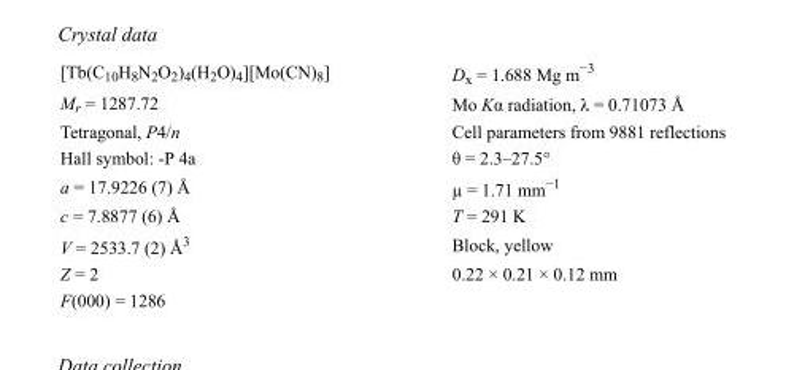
<table><tbody><tr><td>[Tb(C<sub>10</sub>H<sub>8</sub>N<sub>2</sub>O<sub>2</sub>)<sub>4</sub>(H<sub>2</sub>O)<sub>4</sub>][Mo(CN)<sub>8</sub>]</td><td>D<sub>x</sub> = 1.688 Mg m<sup>−3</sup></td></tr><tr><td>M<sub>r</sub> = 1287.72</td><td>Mo Kα radiation, λ = 0.71073 Å</td></tr><tr><td>Tetragonal, P4/n</td><td>Cell parameters from 9881 reflections</td></tr><tr><td>Hall symbol: -P 4a</td><td>θ = 2.3–27.5°</td></tr><tr><td>a = 17.9226 (7) Å</td><td>µ = 1.71 mm<sup>−1</sup></td></tr><tr><td>c = 7.8877 (6) Å</td><td>T = 291 K</td></tr><tr><td>V = 2533.7 (2) Å<sup>3</sup></td><td>Block, yellow</td></tr><tr><td>Z = 2</td><td>0.22 × 0.21 × 0.12 mm</td></tr><tr><td>F(000) = 1286</td><td></td></tr></tbody></table>